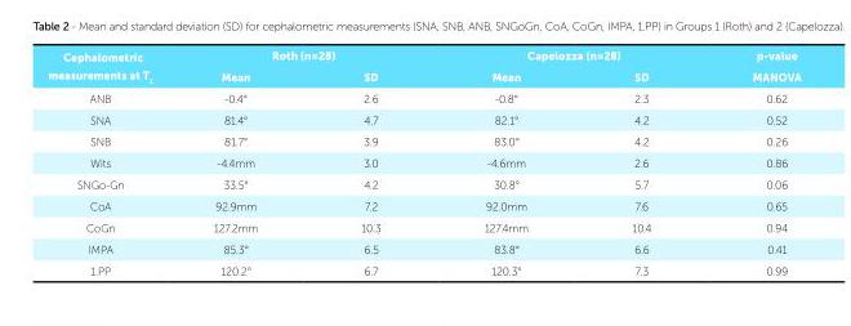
<table><tbody><tr><td rowspan="2">Cephalometric measurements at T<sub>1</sub></td><td colspan="2">Roth (n=28)</td><td colspan="2">Capelozza (n=28)</td><td>p-value</td></tr><tr><td>Mean</td><td>SD</td><td>Mean</td><td>SD</td><td>MANOVA</td></tr><tr><td>ANB</td><td>-0.4°</td><td>2.6</td><td>-0.8°</td><td>2.3</td><td>0.62</td></tr><tr><td>SNA</td><td>81.4°</td><td>4.7</td><td>82.1°</td><td>4.2</td><td>0.52</td></tr><tr><td>SNB</td><td>81.7°</td><td>3.9</td><td>83.0°</td><td>4.2</td><td>0.26</td></tr><tr><td>Wits</td><td>-4.4mm</td><td>3.0</td><td>-4.6mm</td><td>2.6</td><td>0.86</td></tr><tr><td>SNGo-Gn</td><td>33.5°</td><td>4.2</td><td>30.8°</td><td>5.7</td><td>0.06</td></tr><tr><td>CoA</td><td>92.9mm</td><td>7.2</td><td>92.0mm</td><td>7.6</td><td>0.65</td></tr><tr><td>CoGn</td><td>127.2mm</td><td>10.3</td><td>127.4mm</td><td>10.4</td><td>0.94</td></tr><tr><td>IMPA</td><td>85.3°</td><td>6.5</td><td>83.8°</td><td>6.6</td><td>0.41</td></tr><tr><td>1.PP</td><td>120.2°</td><td>6.7</td><td>120.3°</td><td>7.3</td><td>0.99</td></tr></tbody></table>